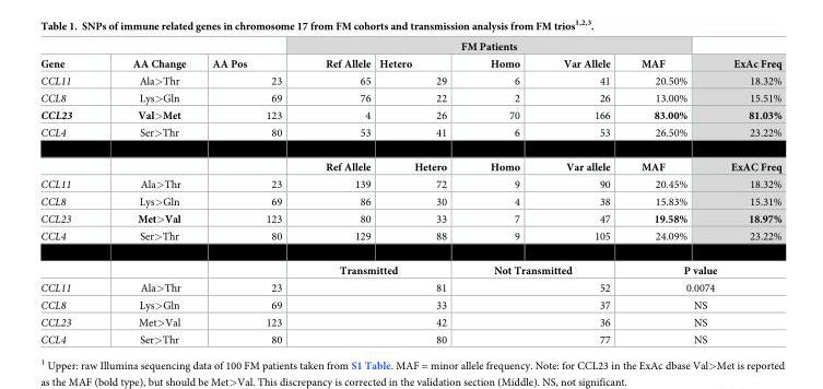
<table><thead><tr><td rowspan="2">Gene</td><td rowspan="2">AA Change</td><td rowspan="2">AA Pos</td><td colspan="5">FM Patients</td><td rowspan="2">ExAc Freq</td></tr><tr><td>Ref Allele</td><td>Hetero</td><td>Homo</td><td>Var Allele</td><td>MAF</td></tr></thead><tbody><tr><td>CCL11</td><td>Ala&gt;Thr</td><td>23</td><td>65</td><td>29</td><td>6</td><td>41</td><td>20.50%</td><td>18.32%</td></tr><tr><td>CCL8</td><td>Lys&gt;Gln</td><td>69</td><td>76</td><td>22</td><td>2</td><td>26</td><td>13.00%</td><td>15.51%</td></tr><tr><td>CCL23</td><td>Val&gt;Met</td><td>123</td><td>4</td><td>26</td><td>70</td><td>166</td><td>83.00%</td><td>81.03%</td></tr><tr><td rowspan="2">CCL4</td><td>Ser&gt;Thr</td><td>80</td><td>53</td><td>41</td><td>6</td><td>53</td><td>26.50%</td><td>23.22%</td></tr><tr><td></td><td></td><td>Ref Allele</td><td>Hetero</td><td>Homo</td><td>Var allele</td><td>MAF</td><td>ExAC Freq</td></tr><tr><td>CCL11</td><td>Ala&gt;Thr</td><td>23</td><td>139</td><td>72</td><td>9</td><td>90</td><td>20.45%</td><td>18.32%</td></tr><tr><td>CCL8</td><td>Lys&gt;Gln</td><td>69</td><td>86</td><td>30</td><td>4</td><td>38</td><td>15.83%</td><td>15.31%</td></tr><tr><td>CCL23</td><td>Met&gt;Val</td><td>123</td><td>80</td><td>33</td><td>7</td><td>47</td><td>19.58%</td><td>18.97%</td></tr><tr><td rowspan="2">CCL4</td><td>Ser&gt;Thr</td><td>80</td><td>129</td><td>88</td><td>9</td><td>105</td><td>24.09%</td><td>23.22%</td></tr><tr><td></td><td></td><td colspan="2">Transmitted</td><td colspan="2">Not Transmitted</td><td colspan="2">P value</td></tr><tr><td>CCL11</td><td>Ala&gt;Thr</td><td>23</td><td colspan="2">81</td><td colspan="2">52</td><td colspan="2">0.0074</td></tr><tr><td>CCL8</td><td>Lys&gt;Gln</td><td>69</td><td colspan="2">33</td><td colspan="2">37</td><td colspan="2">NS</td></tr><tr><td>CCL23</td><td>Met&gt;Val</td><td>123</td><td colspan="2">42</td><td colspan="2">36</td><td colspan="2">NS</td></tr><tr><td>CCL4</td><td>Ser&gt;Thr</td><td>80</td><td colspan="2">80</td><td colspan="2">77</td><td colspan="2">NS</td></tr></tbody></table>